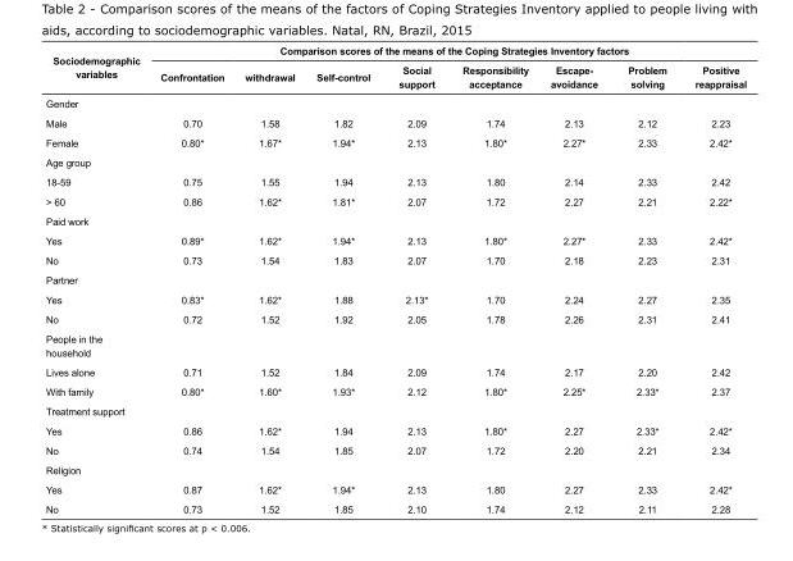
<table><tbody><tr><td rowspan="2">Sociodemographic variables</td><td colspan="8">Comparison scores of the means of the Coping Strategies Inventory factors</td></tr><tr><td>Confrontation</td><td>withdrawal</td><td>Self-control</td><td>Social support</td><td>Responsibility acceptance</td><td>Escape- avoidance</td><td>Problem solving</td><td>Positive reappraisal</td></tr><tr><td colspan="9">Gender</td></tr><tr><td>Male</td><td>0.70</td><td>1.58</td><td>1.82</td><td>2.09</td><td>1.74</td><td>2.13</td><td>2.12</td><td>2.23</td></tr><tr><td>Female</td><td>0.80*</td><td>1.67*</td><td>1.94*</td><td>2.13</td><td>1.80*</td><td>2.27*</td><td>2.33</td><td>2.42*</td></tr><tr><td colspan="9">Age group</td></tr><tr><td>18-59</td><td>0.75</td><td>1.55</td><td>1.94</td><td>2.13</td><td>1.80</td><td>2.14</td><td>2.33</td><td>2.42</td></tr><tr><td>&gt; 60</td><td>0.86</td><td>1.62*</td><td>1.81*</td><td>2.07</td><td>1.72</td><td>2.27</td><td>2.21</td><td>2.22*</td></tr><tr><td colspan="9">Paid work</td></tr><tr><td>Yes</td><td>0.89*</td><td>1.62*</td><td>1.94*</td><td>2.13</td><td>1.80*</td><td>2.27*</td><td>2.33</td><td>2.42*</td></tr><tr><td>No</td><td>0.73</td><td>1.54</td><td>1.83</td><td>2.07</td><td>1.70</td><td>2.18</td><td>2.23</td><td>2.31</td></tr><tr><td colspan="9">Partner</td></tr><tr><td>Yes</td><td>0.83*</td><td>1.62*</td><td>1.88</td><td>2.13*</td><td>1.70</td><td>2.24</td><td>2.27</td><td>2.35</td></tr><tr><td>No</td><td>0.72</td><td>1.52</td><td>1.92</td><td>2.05</td><td>1.78</td><td>2.26</td><td>2.31</td><td>2.41</td></tr><tr><td colspan="9">People in the household</td></tr><tr><td>Lives alone</td><td>0.71</td><td>1.52</td><td>1.84</td><td>2.09</td><td>1.74</td><td>2.17</td><td>2.20</td><td>2.42</td></tr><tr><td>With family</td><td>0.80*</td><td>1.60*</td><td>1.93*</td><td>2.12</td><td>1.80*</td><td>2.25*</td><td>2.33*</td><td>2.37</td></tr><tr><td colspan="9">Treatment support</td></tr><tr><td>Yes</td><td>0.86</td><td>1.62*</td><td>1.94</td><td>2.13</td><td>1.80*</td><td>2.27</td><td>2.33*</td><td>2.42*</td></tr><tr><td>No</td><td>0.74</td><td>1.54</td><td>1.85</td><td>2.07</td><td>1.72</td><td>2.20</td><td>2.21</td><td>2.34</td></tr><tr><td colspan="9">Religion</td></tr><tr><td>Yes</td><td>0.87</td><td>1.62*</td><td>1.94*</td><td>2.13</td><td>1.80</td><td>2.27</td><td>2.33</td><td>2.42*</td></tr><tr><td>No</td><td>0.73</td><td>1.52</td><td>1.85</td><td>2.10</td><td>1.74</td><td>2.12</td><td>2.11</td><td>2.28</td></tr></tbody></table>